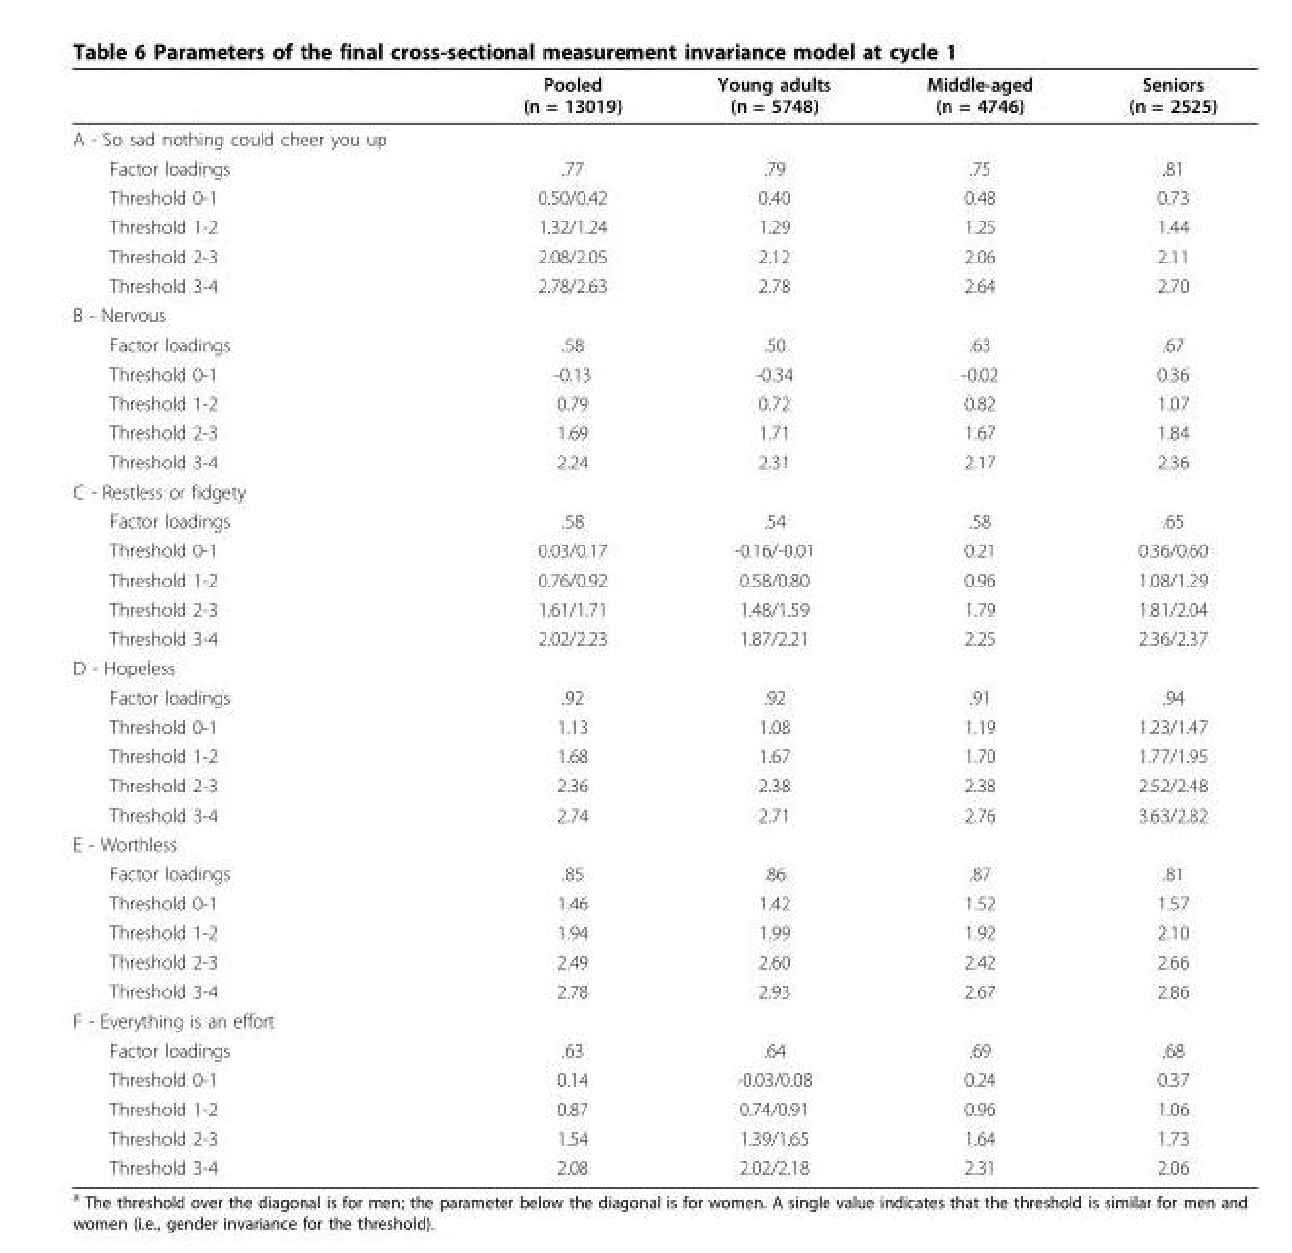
<table><thead><tr><td></td><td>Pooled (n = 13019)</td><td>Young adults (n = 5748)</td><td>Middle-aged (n = 4746)</td><td>Seniors (n = 2525)</td></tr></thead><tbody><tr><td colspan="5">A - So sad nothing could cheer you up</td></tr><tr><td>Factor loadings</td><td>.77</td><td>.79</td><td>.75</td><td>.81</td></tr><tr><td>Threshold 0-1</td><td>0.50/0.42</td><td>0.40</td><td>0.48</td><td>0.73</td></tr><tr><td>Threshold 1-2</td><td>1.32/1.24</td><td>1.29</td><td>1.25</td><td>1.44</td></tr><tr><td>Threshold 2-3</td><td>2.08/2.05</td><td>2.12</td><td>2.06</td><td>2.11</td></tr><tr><td>Threshold 3-4</td><td>2.78/2.63</td><td>2.78</td><td>2.64</td><td>2.70</td></tr><tr><td colspan="5">B - Nervous</td></tr><tr><td>Factor loadings</td><td>.58</td><td>.50</td><td>.63</td><td>.67</td></tr><tr><td>Threshold 0-1</td><td>-0.13</td><td>-0.34</td><td>-0.02</td><td>0.36</td></tr><tr><td>Threshold 1-2</td><td>0.79</td><td>0.72</td><td>0.82</td><td>1.07</td></tr><tr><td>Threshold 2-3</td><td>1.69</td><td>1.71</td><td>1.67</td><td>1.84</td></tr><tr><td>Threshold 3-4</td><td>2.24</td><td>2.31</td><td>2.17</td><td>2.36</td></tr><tr><td colspan="5">C - Restless or fidgety</td></tr><tr><td>Factor loadings</td><td>.58</td><td>.54</td><td>.58</td><td>.65</td></tr><tr><td>Threshold 0-1</td><td>0.03/0.17</td><td>-0.16/-0.01</td><td>0.21</td><td>0.36/0.60</td></tr><tr><td>Threshold 1-2</td><td>0.76/0.92</td><td>0.58/0.80</td><td>0.96</td><td>1.08/1.29</td></tr><tr><td>Threshold 2-3</td><td>1.61/1.71</td><td>1.48/1.59</td><td>1.79</td><td>1.81/2.04</td></tr><tr><td>Threshold 3-4</td><td>2.02/2.23</td><td>1.87/2.21</td><td>2.25</td><td>2.36/2.37</td></tr><tr><td colspan="5">D - Hopeless</td></tr><tr><td>Factor loadings</td><td>.92</td><td>.92</td><td>.91</td><td>.94</td></tr><tr><td>Threshold 0-1</td><td>1.13</td><td>1.08</td><td>1.19</td><td>1.23/1.47</td></tr><tr><td>Threshold 1-2</td><td>1.68</td><td>1.67</td><td>1.70</td><td>1.77/1.95</td></tr><tr><td>Threshold 2-3</td><td>2.36</td><td>2.38</td><td>2.38</td><td>2.52/2.48</td></tr><tr><td>Threshold 3-4</td><td>2.74</td><td>2.71</td><td>2.76</td><td>3.63/2.82</td></tr><tr><td colspan="5">E - Worthless</td></tr><tr><td>Factor loadings</td><td>.85</td><td>.86</td><td>.87</td><td>.81</td></tr><tr><td>Threshold 0-1</td><td>1.46</td><td>1.42</td><td>1.52</td><td>1.57</td></tr><tr><td>Threshold 1-2</td><td>1.94</td><td>1.99</td><td>1.92</td><td>2.10</td></tr><tr><td>Threshold 2-3</td><td>2.49</td><td>2.60</td><td>2.42</td><td>2.66</td></tr><tr><td>Threshold 3-4</td><td>2.78</td><td>2.93</td><td>2.67</td><td>2.86</td></tr><tr><td colspan="5">F - Everything is an effort</td></tr><tr><td>Factor loadings</td><td>.63</td><td>.64</td><td>.69</td><td>.68</td></tr><tr><td>Threshold 0-1</td><td>0.14</td><td>-0.03/0.08</td><td>0.24</td><td>0.37</td></tr><tr><td>Threshold 1-2</td><td>0.87</td><td>0.74/0.91</td><td>0.96</td><td>1.06</td></tr><tr><td>Threshold 2-3</td><td>1.54</td><td>1.39/1.65</td><td>1.64</td><td>1.73</td></tr><tr><td>Threshold 3-4</td><td>2.08</td><td>2.02/2.18</td><td>2.31</td><td>2.06</td></tr></tbody></table>